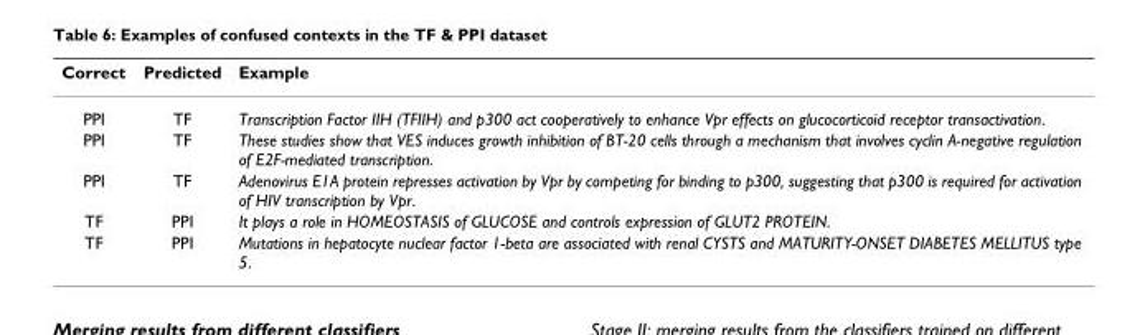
<table><thead><tr><td>Correct</td><td>Predicted</td><td>Example</td></tr></thead><tbody><tr><td>PPI</td><td>TF</td><td>Transcription Factor IIH (TFIIH) and p300 act cooperatively to enhance Vpr effects on glucocorticoid receptor transactivation.</td></tr><tr><td>PPI</td><td>TF</td><td>These studies show that VES induces growth inhibition of BT-20 cells through a mechanism that involves cyclin A-negative regulation of E2F-mediated transcription.</td></tr><tr><td>PPI</td><td>TF</td><td>Adenovirus E1A protein represses activation by Vpr by competing for binding to p300, suggesting that p300 is required for activation of HIV transcription by Vpr.</td></tr><tr><td>TF</td><td>PPI</td><td>It plays a role in HOMEOSTASIS of GLUCOSE and controls expression of GLUT2 PROTEIN.</td></tr><tr><td>TF</td><td>PPI</td><td>Mutations in hepatocyte nuclear factor 1-beta are associated with renal CYSTS and MATURITY-ONSET DIABETES MELLITUS type 5.</td></tr></tbody></table>